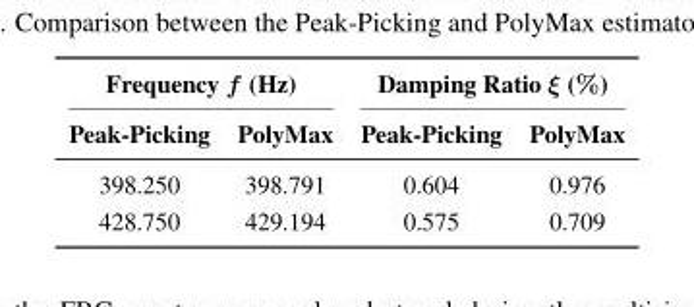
<table><thead><tr><td colspan="2">Frequency f (Hz)</td><td colspan="2">Damping Ratio ξ (%)</td></tr><tr><td>Peak-Picking</td><td>PolyMax</td><td>Peak-Picking</td><td>PolyMax</td></tr></thead><tbody><tr><td>398.250</td><td>398.791</td><td>0.604</td><td>0.976</td></tr><tr><td>428.750</td><td>429.194</td><td>0.575</td><td>0.709</td></tr></tbody></table>